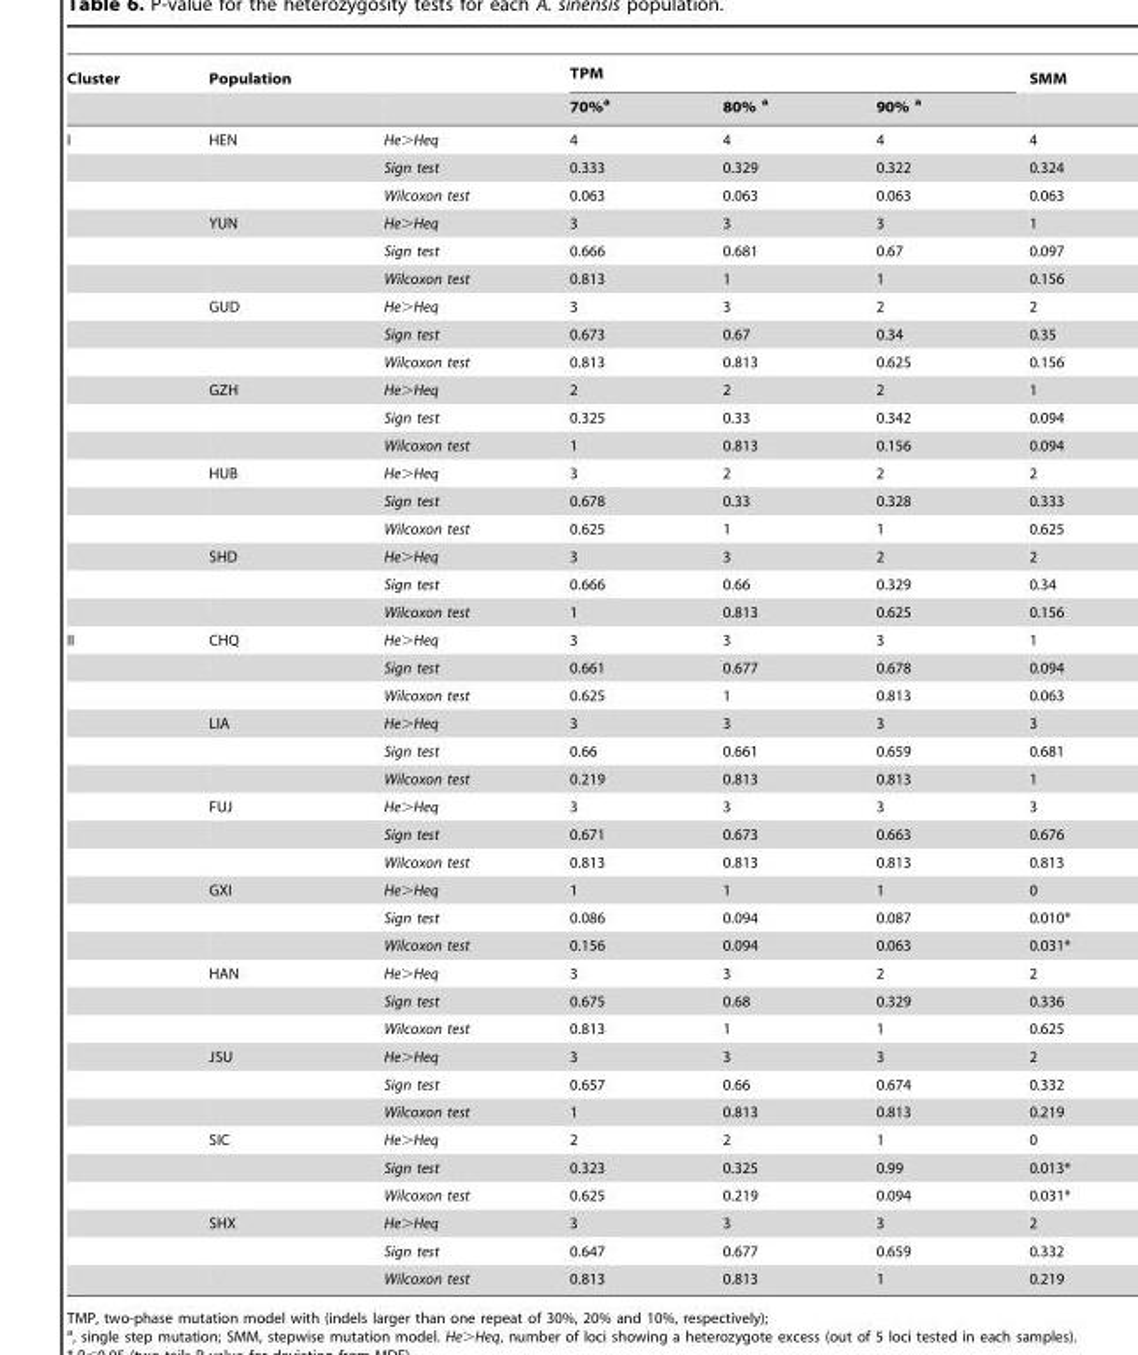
<table><thead><tr><td rowspan="2">Cluster</td><td rowspan="2">Population</td><td rowspan="2"></td><td colspan="3">TPM</td><td rowspan="2">SMM</td></tr><tr><td>70%<sup>a</sup></td><td>80% a</td><td>90% a</td></tr></thead><tbody><tr><td rowspan="18">I</td><td>HEN</td><td>He&gt;Heq</td><td>4</td><td>4</td><td>4</td><td>4</td></tr><tr><td></td><td>Sign test</td><td>0.333</td><td>0.329</td><td>0.322</td><td>0.324</td></tr><tr><td></td><td>Wilcoxon test</td><td>0.063</td><td>0.063</td><td>0.063</td><td>0.063</td></tr><tr><td>YUN</td><td>He&gt;Heq</td><td>3</td><td>3</td><td>3</td><td>1</td></tr><tr><td></td><td>Sign test</td><td>0.666</td><td>0.681</td><td>0.67</td><td>0.097</td></tr><tr><td></td><td>Wilcoxon test</td><td>0.813</td><td>1</td><td>1</td><td>0.156</td></tr><tr><td>GUD</td><td>He&gt;Heq</td><td>3</td><td>3</td><td>2</td><td>2</td></tr><tr><td></td><td>Sign test</td><td>0.673</td><td>0.67</td><td>0.34</td><td>0.35</td></tr><tr><td></td><td>Wilcoxon test</td><td>0.813</td><td>0.813</td><td>0.625</td><td>0.156</td></tr><tr><td>GZH</td><td>He&gt;Heq</td><td>2</td><td>2</td><td>2</td><td>1</td></tr><tr><td></td><td>Sign test</td><td>0.325</td><td>0.33</td><td>0.342</td><td>0.094</td></tr><tr><td></td><td>Wilcoxon test</td><td>1</td><td>0.813</td><td>0.156</td><td>0.094</td></tr><tr><td>HUB</td><td>He&gt;Heq</td><td>3</td><td>2</td><td>2</td><td>2</td></tr><tr><td></td><td>Sign test</td><td>0.678</td><td>0.33</td><td>0.328</td><td>0.333</td></tr><tr><td></td><td>Wilcoxon test</td><td>0.625</td><td>1</td><td>1</td><td>0.625</td></tr><tr><td>SHD</td><td>He&gt;Heq</td><td>3</td><td>3</td><td>2</td><td>2</td></tr><tr><td></td><td>Sign test</td><td>0.666</td><td>0.66</td><td>0.329</td><td>0.34</td></tr><tr><td></td><td>Wilcoxon test</td><td>1</td><td>0.813</td><td>0.625</td><td>0.156</td></tr><tr><td rowspan="24">II</td><td>CHQ</td><td>He&gt;Heq</td><td>3</td><td>3</td><td>3</td><td>1</td></tr><tr><td></td><td>Sign test</td><td>0.661</td><td>0.677</td><td>0.678</td><td>0.094</td></tr><tr><td></td><td>Wilcoxon test</td><td>0.625</td><td>1</td><td>0.813</td><td>0.063</td></tr><tr><td>LIA</td><td>He&gt;Heq</td><td>3</td><td>3</td><td>3</td><td>3</td></tr><tr><td></td><td>Sign test</td><td>0.66</td><td>0.661</td><td>0.659</td><td>0.681</td></tr><tr><td></td><td>Wilcoxon test</td><td>0.219</td><td>0.813</td><td>0.813</td><td>1</td></tr><tr><td>FUJ</td><td>He&gt;Heq</td><td>3</td><td>3</td><td>3</td><td>3</td></tr><tr><td></td><td>Sign test</td><td>0.671</td><td>0.673</td><td>0.663</td><td>0.676</td></tr><tr><td></td><td>Wilcoxon test</td><td>0.813</td><td>0.813</td><td>0.813</td><td>0.813</td></tr><tr><td>GXI</td><td>He&gt;Heq</td><td>1</td><td>1</td><td>1</td><td>0</td></tr><tr><td></td><td>Sign test</td><td>0.086</td><td>0.094</td><td>0.087</td><td>0.010*</td></tr><tr><td></td><td>Wilcoxon test</td><td>0.156</td><td>0.094</td><td>0.063</td><td>0.031*</td></tr><tr><td>HAN</td><td>He&gt;Heq</td><td>3</td><td>3</td><td>2</td><td>2</td></tr><tr><td></td><td>Sign test</td><td>0.675</td><td>0.68</td><td>0.329</td><td>0.336</td></tr><tr><td></td><td>Wilcoxon test</td><td>0.813</td><td>1</td><td>1</td><td>0.625</td></tr><tr><td>JSU</td><td>He&gt;Heq</td><td>3</td><td>3</td><td>3</td><td>2</td></tr><tr><td></td><td>Sign test</td><td>0.657</td><td>0.66</td><td>0.674</td><td>0.332</td></tr><tr><td></td><td>Wilcoxon test</td><td>1</td><td>0.813</td><td>0.813</td><td>0.219</td></tr><tr><td>SIC</td><td>He&gt;Heq</td><td>2</td><td>2</td><td>1</td><td>0</td></tr><tr><td></td><td>Sign test</td><td>0.323</td><td>0.325</td><td>0.99</td><td>0.013*</td></tr><tr><td></td><td>Wilcoxon test</td><td>0.625</td><td>0.219</td><td>0.094</td><td>0.031*</td></tr><tr><td>SHX</td><td>He&gt;Heq</td><td>3</td><td>3</td><td>3</td><td>2</td></tr><tr><td></td><td>Sign test</td><td>0.647</td><td>0.677</td><td>0.659</td><td>0.332</td></tr><tr><td></td><td>Wilcoxon test</td><td>0.813</td><td>0.813</td><td>1</td><td>0.219</td></tr></tbody></table>